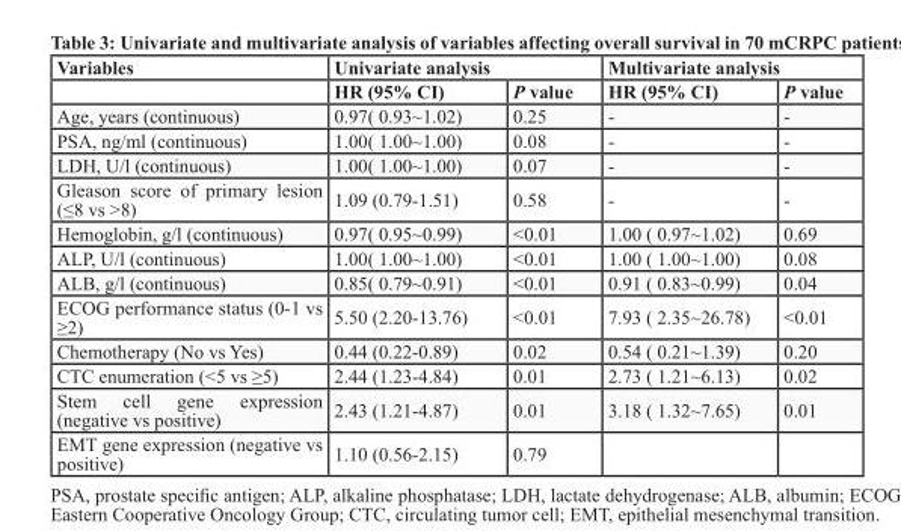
<table><thead><tr><td rowspan="2">Variables</td><td colspan="2">Univariate analysis</td><td colspan="2">Multivariate analysis</td></tr><tr><td>HR (95% CI)</td><td>P value</td><td>HR (95% CI)</td><td>P value</td></tr></thead><tbody><tr><td>Age, years (continuous)</td><td>0.97( 0.93~1.02)</td><td>0.25</td><td>-</td><td>-</td></tr><tr><td>PSA, ng/ml (continuous)</td><td>1.00( 1.00~1.00)</td><td>0.08</td><td>-</td><td>-</td></tr><tr><td>LDH, U/l (continuous)</td><td>1.00( 1.00~1.00)</td><td>0.07</td><td>-</td><td>-</td></tr><tr><td>Gleason score of primary lesion (≤8 vs &gt;8)</td><td>1.09 (0.79-1.51)</td><td>0.58</td><td>-</td><td>-</td></tr><tr><td>Hemoglobin, g/l (continuous)</td><td>0.97( 0.95~0.99)</td><td>&lt;0.01</td><td>1.00 ( 0.97~1.02)</td><td>0.69</td></tr><tr><td>ALP, U/l (continuous)</td><td>1.00( 1.00~1.00)</td><td>&lt;0.01</td><td>1.00 ( 1.00~1.00)</td><td>0.08</td></tr><tr><td>ALB, g/l (continuous)</td><td>0.85( 0.79~0.91)</td><td>&lt;0.01</td><td>0.91 ( 0.83~0.99)</td><td>0.04</td></tr><tr><td>ECOG performance status (0-1 vs ≥2)</td><td>5.50 (2.20-13.76)</td><td>&lt;0.01</td><td>7.93 ( 2.35~26.78)</td><td>&lt;0.01</td></tr><tr><td>Chemotherapy (No vs Yes)</td><td>0.44 (0.22-0.89)</td><td>0.02</td><td>0.54 ( 0.21~1.39)</td><td>0.20</td></tr><tr><td>CTC enumeration (&lt;5 vs ≥5)</td><td>2.44 (1.23-4.84)</td><td>0.01</td><td>2.73 ( 1.21~6.13)</td><td>0.02</td></tr><tr><td>Stem cell gene expression (negative vs positive)</td><td>2.43 (1.21-4.87)</td><td>0.01</td><td>3.18 ( 1.32~7.65)</td><td>0.01</td></tr><tr><td>EMT gene expression (negative vs positive)</td><td>1.10 (0.56-2.15)</td><td>0.79</td><td></td><td></td></tr></tbody></table>